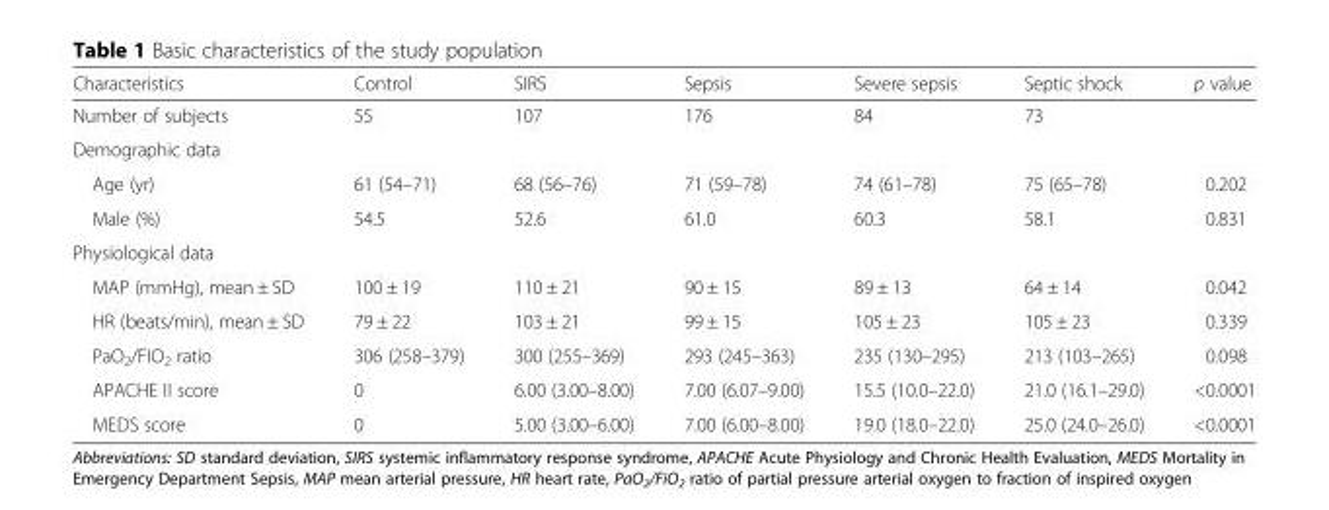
<table><thead><tr><td>Characteristics</td><td>Control</td><td>SIRS</td><td>Sepsis</td><td>Severe sepsis</td><td>Septic shock</td><td>p value</td></tr></thead><tbody><tr><td>Number of subjects</td><td>55</td><td>107</td><td>176</td><td>84</td><td>73</td><td></td></tr><tr><td colspan="7">Demographic data</td></tr><tr><td>Age (yr)</td><td>61 (54–71)</td><td>68 (56–76)</td><td>71 (59–78)</td><td>74 (61–78)</td><td>75 (65–78)</td><td>0.202</td></tr><tr><td>Male (%)</td><td>54.5</td><td>52.6</td><td>61.0</td><td>60.3</td><td>58.1</td><td>0.831</td></tr><tr><td colspan="7">Physiological data</td></tr><tr><td>MAP (mmHg), mean ± SD</td><td>100 ± 19</td><td>110 ± 21</td><td>90 ± 15</td><td>89 ± 13</td><td>64 ± 14</td><td>0.042</td></tr><tr><td>HR (beats/min), mean ± SD</td><td>79 ± 22</td><td>103 ± 21</td><td>99 ± 15</td><td>105 ± 23</td><td>105 ± 23</td><td>0.339</td></tr><tr><td>PaO<sub>2</sub>/FIO<sub>2</sub> ratio</td><td>306 (258–379)</td><td>300 (255–369)</td><td>293 (245–363)</td><td>235 (130–295)</td><td>213 (103–265)</td><td>0.098</td></tr><tr><td>APACHE II score</td><td>0</td><td>6.00 (3.00–8.00)</td><td>7.00 (6.07–9.00)</td><td>15.5 (10.0–22.0)</td><td>21.0 (16.1–29.0)</td><td>&lt;0.0001</td></tr><tr><td>MEDS score</td><td>0</td><td>5.00 (3.00–6.00)</td><td>7.00 (6.00–8.00)</td><td>19.0 (18.0–22.0)</td><td>25.0 (24.0–26.0)</td><td>&lt;0.0001</td></tr></tbody></table>